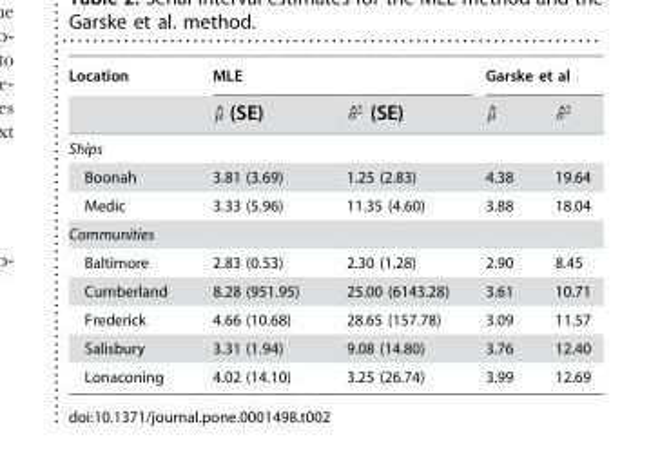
<table><thead><tr><td rowspan="2">Location</td><td colspan="2">MLE</td><td colspan="2">Garske et al</td></tr><tr><td>^m (SE)</td><td>^s2 (SE)</td><td>^m</td><td>^s2</td></tr></thead><tbody><tr><td colspan="5">Ships</td></tr><tr><td>Boonah</td><td>3.81 (3.69)</td><td>1.25 (2.83)</td><td>4.38</td><td>19.64</td></tr><tr><td>Medic</td><td>3.33 (5.96)</td><td>11.35 (4.60)</td><td>3.88</td><td>18.04</td></tr><tr><td colspan="5">Communities</td></tr><tr><td>Baltimore</td><td>2.83 (0.53)</td><td>2.30 (1.28)</td><td>2.90</td><td>8.45</td></tr><tr><td>Cumberland</td><td>8.28 (951.95)</td><td>25.00 (6143.28)</td><td>3.61</td><td>10.71</td></tr><tr><td>Frederick</td><td>4.66 (10.68)</td><td>28.65 (157.78)</td><td>3.09</td><td>11.57</td></tr><tr><td>Salisbury</td><td>3.31 (1.94)</td><td>9.08 (14.80)</td><td>3.76</td><td>12.40</td></tr><tr><td>Lonaconing</td><td>4.02 (14.10)</td><td>3.25 (26.74)</td><td>3.99</td><td>12.69</td></tr></tbody></table>